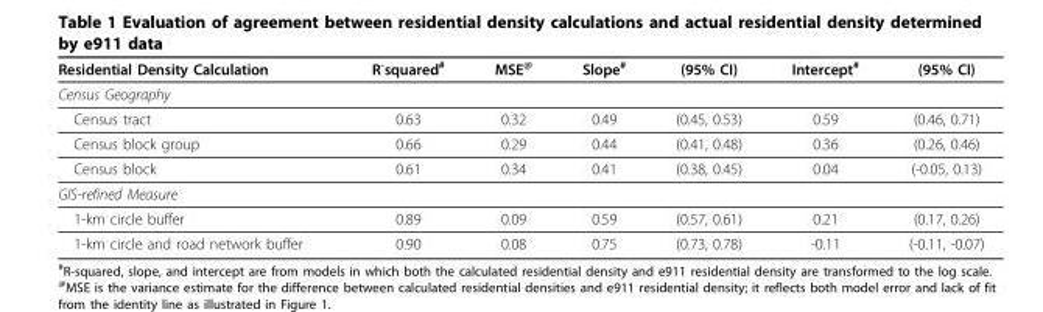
<table><thead><tr><td>Residential Density Calculation</td><td>R<sup>-</sup>squared<sup>#</sup></td><td>MSE<sup>@</sup></td><td>Slope<sup>#</sup></td><td>(95% CI)</td><td>Intercept<sup>#</sup></td><td>(95% CI)</td></tr></thead><tbody><tr><td colspan="7">Census Geography</td></tr><tr><td>Census tract</td><td>0.63</td><td>0.32</td><td>0.49</td><td>(0.45, 0.53)</td><td>0.59</td><td>(0.46, 0.71)</td></tr><tr><td>Census block group</td><td>0.66</td><td>0.29</td><td>0.44</td><td>(0.41, 0.48)</td><td>0.36</td><td>(0.26, 0.46)</td></tr><tr><td>Census block</td><td>0.61</td><td>0.34</td><td>0.41</td><td>(0.38, 0.45)</td><td>0.04</td><td>(-0.05, 0.13)</td></tr><tr><td colspan="7">GIS-refined Measure</td></tr><tr><td>1-km circle buffer</td><td>0.89</td><td>0.09</td><td>0.59</td><td>(0.57, 0.61)</td><td>0.21</td><td>(0.17, 0.26)</td></tr><tr><td>1-km circle and road network buffer</td><td>0.90</td><td>0.08</td><td>0.75</td><td>(0.73, 0.78)</td><td>-0.11</td><td>(-0.11, -0.07)</td></tr></tbody></table>